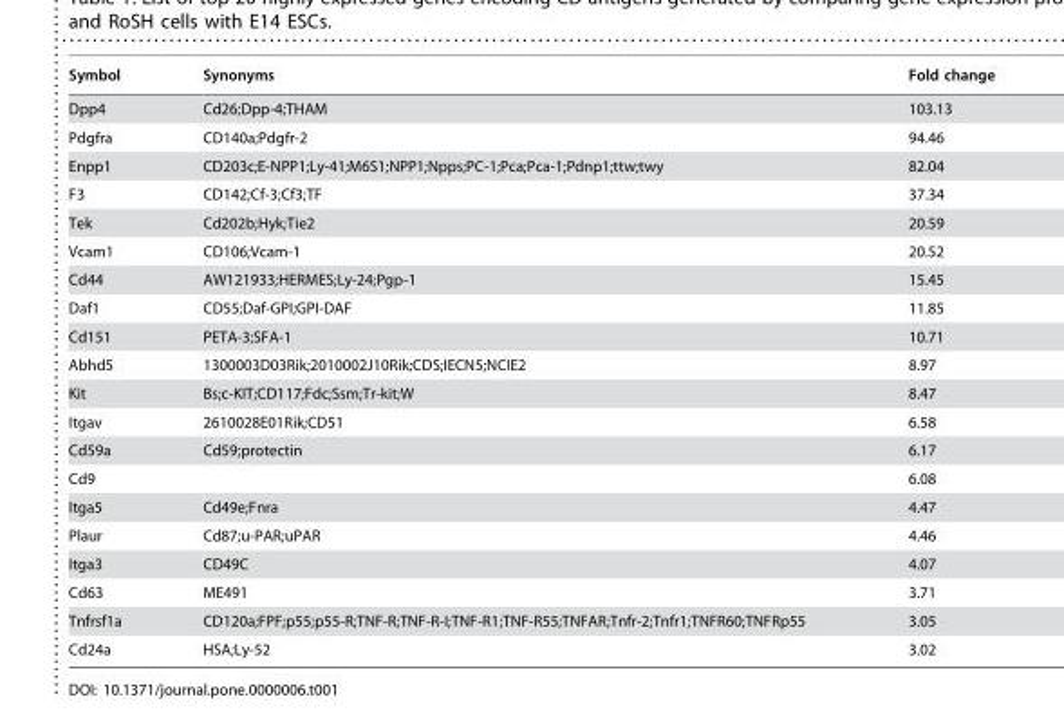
<table><thead><tr><td>Symbol</td><td>Synonyms</td><td>Fold change</td></tr></thead><tbody><tr><td>Dpp4</td><td>Cd26;Dpp-4;THAM</td><td>103.13</td></tr><tr><td>Pdgfra</td><td>CD140a;Pdgfr-2</td><td>94.46</td></tr><tr><td>Enpp1</td><td>CD203c;E-NPP1;Ly-41;M6S1;NPP1;Npps;PC-1;Pca;Pca-1;Pdnp1;ttw;twy</td><td>82.04</td></tr><tr><td>F3</td><td>CD142;Cf-3;Cf3;TF</td><td>37.34</td></tr><tr><td>Tek</td><td>Cd202b;Hyk;Tie2</td><td>20.59</td></tr><tr><td>Vcam1</td><td>CD106;Vcam-1</td><td>20.52</td></tr><tr><td>Cd44</td><td>AW121933;HERMES;Ly-24;Pgp-1</td><td>15.45</td></tr><tr><td>Daf1</td><td>CD55;Daf-GPI;GPI-DAF</td><td>11.85</td></tr><tr><td>Cd151</td><td>PETA-3;SFA-1</td><td>10.71</td></tr><tr><td>Abhd5</td><td>1300003D03Rik;2010002J10Rik;CDS;IECN5;NCIE2</td><td>8.97</td></tr><tr><td>Kit</td><td>Bs;c-KIT;CD117;Fdc;Ssm;Tr-kit;W</td><td>8.47</td></tr><tr><td>Itgav</td><td>2610028E01Rik;CD51</td><td>6.58</td></tr><tr><td>Cd59a</td><td>Cd59;protectin</td><td>6.17</td></tr><tr><td>Cd9</td><td></td><td>6.08</td></tr><tr><td>Itga5</td><td>Cd49e;Fnra</td><td>4.47</td></tr><tr><td>Plaur</td><td>Cd87;u-PAR;uPAR</td><td>4.46</td></tr><tr><td>Itga3</td><td>CD49C</td><td>4.07</td></tr><tr><td>Cd63</td><td>ME491</td><td>3.71</td></tr><tr><td>Tnfrsf1a</td><td>CD120a;FPF;p55;p55-R;TNF-R;TNF-R-I;TNF-R1;TNF-R55;TNFAR;Tnfr-2;Tnfr1;TNFR60;TNFRp55</td><td>3.05</td></tr><tr><td>Cd24a</td><td>HSA;Ly-52</td><td>3.02</td></tr></tbody></table>